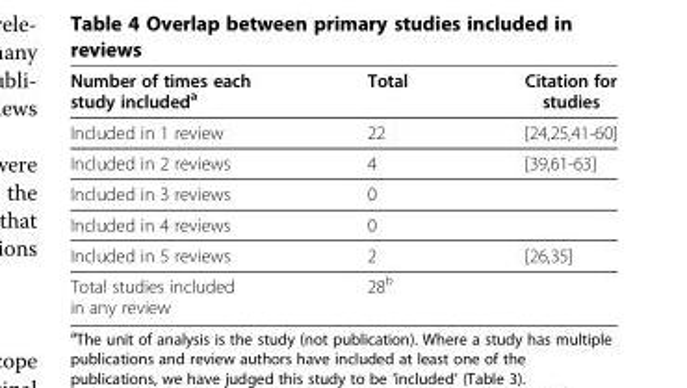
<table><thead><tr><td>Number of times each study included<sup>a</sup></td><td>Total</td><td>Citation for studies</td></tr></thead><tbody><tr><td>Included in 1 review</td><td>22</td><td>[24,25,41-60]</td></tr><tr><td>Included in 2 reviews</td><td>4</td><td>[39,61-63]</td></tr><tr><td>Included in 3 reviews</td><td>0</td><td></td></tr><tr><td>Included in 4 reviews</td><td>0</td><td></td></tr><tr><td>Included in 5 reviews</td><td>2</td><td>[26,35]</td></tr><tr><td>Total studies included in any review</td><td>28<sup>b</sup></td><td></td></tr></tbody></table>